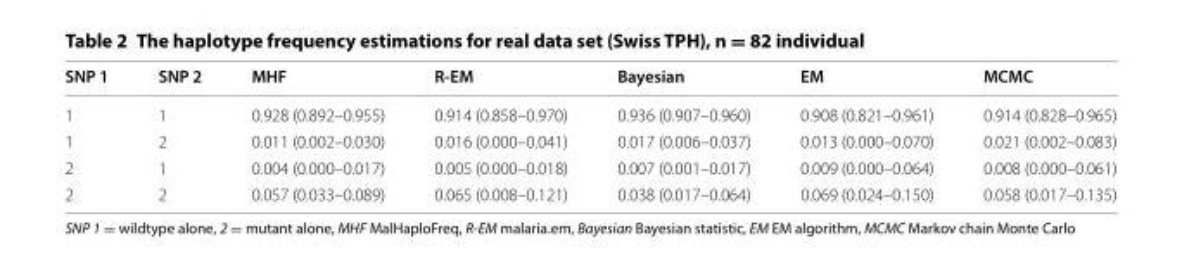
<table><thead><tr><td>SNP 1</td><td>SNP 2</td><td>MHF</td><td>R-EM</td><td>Bayesian</td><td>EM</td><td>MCMC</td></tr></thead><tbody><tr><td>1</td><td>1</td><td>0.928 (0.892–0.955)</td><td>0.914 (0.858–0.970)</td><td>0.936 (0.907–0.960)</td><td>0.908 (0.821–0.961)</td><td>0.914 (0.828–0.965)</td></tr><tr><td>1</td><td>2</td><td>0.011 (0.002–0.030)</td><td>0.016 (0.000–0.041)</td><td>0.017 (0.006–0.037)</td><td>0.013 (0.000–0.070)</td><td>0.021 (0.002–0.083)</td></tr><tr><td>2</td><td>1</td><td>0.004 (0.000–0.017)</td><td>0.005 (0.000–0.018)</td><td>0.007 (0.001–0.017)</td><td>0.009 (0.000–0.064)</td><td>0.008 (0.000–0.061)</td></tr><tr><td>2</td><td>2</td><td>0.057 (0.033–0.089)</td><td>0.065 (0.008–0.121)</td><td>0.038 (0.017–0.064)</td><td>0.069 (0.024–0.150)</td><td>0.058 (0.017–0.135)</td></tr></tbody></table>